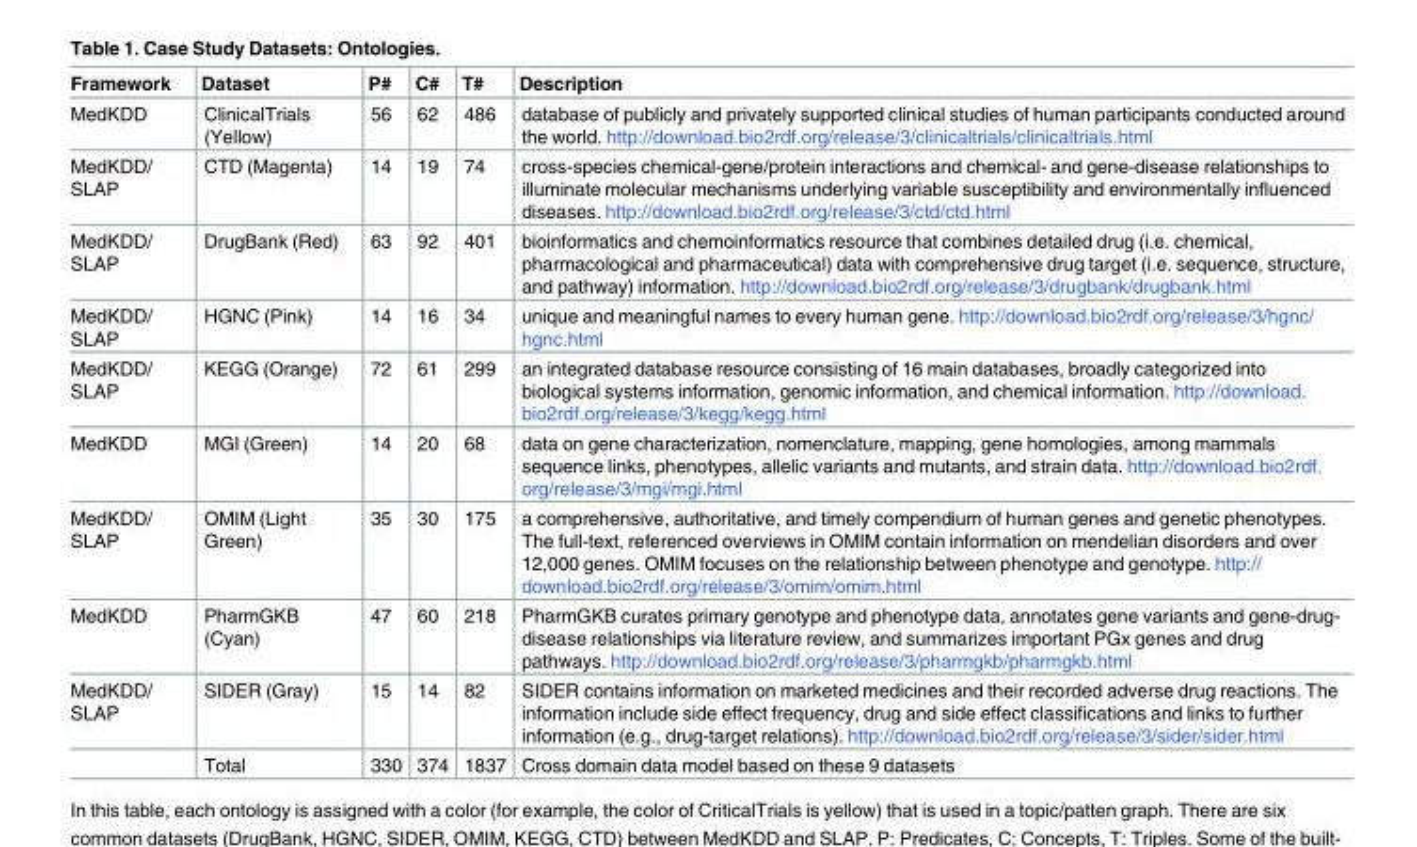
<table><thead><tr><td>Framework</td><td>Dataset</td><td>P#</td><td>C#</td><td>T#</td><td>Description</td></tr></thead><tbody><tr><td>MedKDD</td><td>ClinicalTrials (Yellow)</td><td>56</td><td>62</td><td>486</td><td>database of publicly and privately supported clinical studies of human participants conducted around the world. http://download.bio2rdf.org/release/3/clinicaltrials/clinicaltrials.html</td></tr><tr><td>MedKDD/ SLAP</td><td>CTD (Magenta)</td><td>14</td><td>19</td><td>74</td><td>cross-species chemical-gene/protein interactions and chemical- and gene-disease relationships to illuminate molecular mechanisms underlying variable susceptibility and environmentally influenced diseases. http://download.bio2rdf.org/release/3/ctd/ctd.html</td></tr><tr><td>MedKDD/ SLAP</td><td>DrugBank (Red)</td><td>63</td><td>92</td><td>401</td><td>bioinformatics and chemoinformatics resource that combines detailed drug (i.e. chemical, pharmacological and pharmaceutical) data with comprehensive drug target (i.e. sequence, structure, and pathway) information. http://download.bio2rdf.org/release/3/drugbank/drugbank.html</td></tr><tr><td>MedKDD/ SLAP</td><td>HGNC (Pink)</td><td>14</td><td>16</td><td>34</td><td>unique and meaningful names to every human gene. http://download.bio2rdf.org/release/3/hgnc/ hgnc.html</td></tr><tr><td>MedKDD/ SLAP</td><td>KEGG (Orange)</td><td>72</td><td>61</td><td>299</td><td>an integrated database resource consisting of 16 main databases, broadly categorized into biological systems information, genomic information, and chemical information. http://download. bio2rdf.org/release/3/kegg/kegg.html</td></tr><tr><td>MedKDD</td><td>MGI (Green)</td><td>14</td><td>20</td><td>68</td><td>data on gene characterization, nomenclature, mapping, gene homologies, among mammals sequence links, phenotypes, allelic variants and mutants, and strain data. http://download.bio2rdf. org/release/3/mgi/mgi.html</td></tr><tr><td>MedKDD/ SLAP</td><td>OMIM (Light Green)</td><td>35</td><td>30</td><td>175</td><td>a comprehensive, authoritative, and timely compendium of human genes and genetic phenotypes. The full-text, referenced overviews in OMIM contain information on mendelian disorders and over 12,000 genes. OMIM focuses on the relationship between phenotype and genotype. http:// download.bio2rdf.org/release/3/omim/omim.html</td></tr><tr><td>MedKDD</td><td>PharmGKB (Cyan)</td><td>47</td><td>60</td><td>218</td><td>PharmGKB curates primary genotype and phenotype data, annotates gene variants and gene-drug- disease relationships via literature review, and summarizes important PGx genes and drug pathways. http://download.bio2rdf.org/release/3/pharmgkb/pharmgkb.html</td></tr><tr><td rowspan="2">MedKDD/ SLAP</td><td>SIDER (Gray)</td><td>15</td><td>14</td><td>82</td><td>SIDER contains information on marketed medicines and their recorded adverse drug reactions. The information include side effect frequency, drug and side effect classifications and links to further information (e.g., drug-target relations). http://download.bio2rdf.org/release/3/sider/sider.html</td></tr><tr><td>Total</td><td>330</td><td>374</td><td>1837</td><td>Cross domain data model based on these 9 datasets</td></tr></tbody></table>